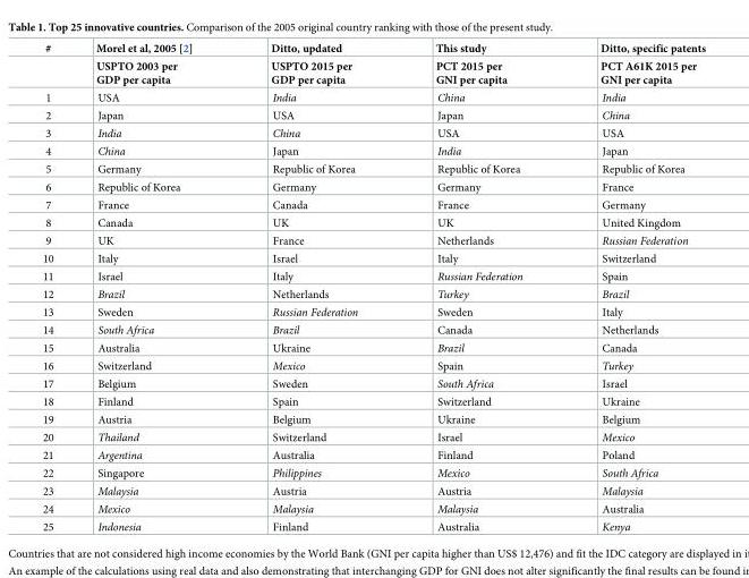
<table><thead><tr><td rowspan="2">#</td><td rowspan="2">Morel et al, 2005 [2] USPTO 2003 per GDP per capita</td><td rowspan="2">Ditto, updated USPTO 2015 per GDP per capita</td><td rowspan="2">This study PCT 2015 per GNI per capita</td><td rowspan="2">Ditto, specific patents PCT A61K 2015 per GNI per capita</td></tr><tr></tr></thead><tbody><tr><td>1</td><td>USA</td><td>India</td><td>China</td><td>India</td></tr><tr><td>2</td><td>Japan</td><td>USA</td><td>Japan</td><td>China</td></tr><tr><td>3</td><td>India</td><td>China</td><td>USA</td><td>USA</td></tr><tr><td>4</td><td>China</td><td>Japan</td><td>India</td><td>Japan</td></tr><tr><td>5</td><td>Germany</td><td>Republic of Korea</td><td>Republic of Korea</td><td>Republic of Korea</td></tr><tr><td>6</td><td>Republic of Korea</td><td>Germany</td><td>Germany</td><td>France</td></tr><tr><td>7</td><td>France</td><td>Canada</td><td>France</td><td>Germany</td></tr><tr><td>8</td><td>Canada</td><td>UK</td><td>UK</td><td>United Kingdom</td></tr><tr><td>9</td><td>UK</td><td>France</td><td>Netherlands</td><td>Russian Federation</td></tr><tr><td>10</td><td>Italy</td><td>Israel</td><td>Italy</td><td>Switzerland</td></tr><tr><td>11</td><td>Israel</td><td>Italy</td><td>Russian Federation</td><td>Spain</td></tr><tr><td>12</td><td>Brazil</td><td>Netherlands</td><td>Turkey</td><td>Brazil</td></tr><tr><td>13</td><td>Sweden</td><td>Russian Federation</td><td>Sweden</td><td>Italy</td></tr><tr><td>14</td><td>South Africa</td><td>Brazil</td><td>Canada</td><td>Netherlands</td></tr><tr><td>15</td><td>Australia</td><td>Ukraine</td><td>Brazil</td><td>Canada</td></tr><tr><td>16</td><td>Switzerland</td><td>Mexico</td><td>Spain</td><td>Turkey</td></tr><tr><td>17</td><td>Belgium</td><td>Sweden</td><td>South Africa</td><td>Israel</td></tr><tr><td>18</td><td>Finland</td><td>Spain</td><td>Switzerland</td><td>Ukraine</td></tr><tr><td>19</td><td>Austria</td><td>Belgium</td><td>Ukraine</td><td>Belgium</td></tr><tr><td>20</td><td>Thailand</td><td>Switzerland</td><td>Israel</td><td>Mexico</td></tr><tr><td>21</td><td>Argentina</td><td>Australia</td><td>Finland</td><td>Poland</td></tr><tr><td>22</td><td>Singapore</td><td>Philippines</td><td>Mexico</td><td>South Africa</td></tr><tr><td>23</td><td>Malaysia</td><td>Austria</td><td>Austria</td><td>Malaysia</td></tr><tr><td>24</td><td>Mexico</td><td>Malaysia</td><td>Malaysia</td><td>Australia</td></tr><tr><td>25</td><td>Indonesia</td><td>Finland</td><td>Australia</td><td>Kenya</td></tr></tbody></table>